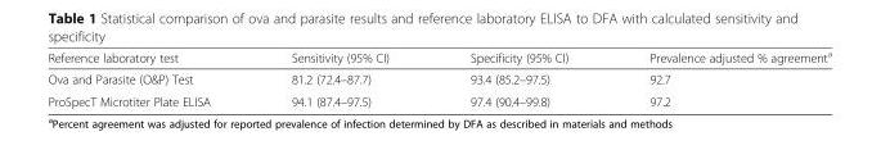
<table><thead><tr><td>Reference laboratory test</td><td>Sensitivity (95% CI)</td><td>Specificity (95% CI)</td><td>Prevalence adjusted % agreement<sup>a</sup></td></tr></thead><tbody><tr><td>Ova and Parasite (O&amp;P) Test</td><td>81.2 (72.4–87.7)</td><td>93.4 (85.2–97.5)</td><td>92.7</td></tr><tr><td>ProSpecT Microtiter Plate ELISA</td><td>94.1 (87.4–97.5)</td><td>97.4 (90.4–99.8)</td><td>97.2</td></tr></tbody></table>